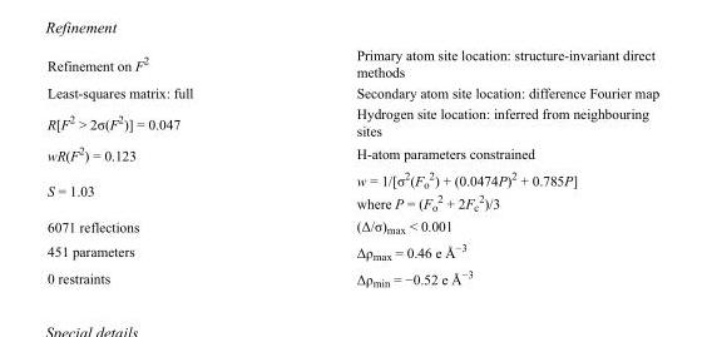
<table><tbody><tr><td>Refinement on F<sup>2</sup></td><td>Primary atom site location: structure-invariant direct methods</td></tr><tr><td>Least-squares matrix: full</td><td>Secondary atom site location: difference Fourier map</td></tr><tr><td>R[F<sup>2</sup> &gt; 2σ(F<sup>2</sup>)] = 0.047</td><td>Hydrogen site location: inferred from neighbouring sites</td></tr><tr><td>wR(F<sup>2</sup>) = 0.123</td><td>H-atom parameters constrained</td></tr><tr><td>S = 1.03</td><td>w = 1/[σ<sup>2</sup>(F<sub>o</sub> <sup>2</sup>) + (0.0474P)<sup>2</sup> + 0.785P] where P = (F<sub>o</sub> <sup>2</sup> + 2F<sub>c</sub> <sup>2</sup>)/3</td></tr><tr><td>6071 reflections</td><td>(Δ/σ)<sub>max</sub> &lt; 0.001</td></tr><tr><td>451 parameters</td><td>Δρ<sub>max</sub> = 0.46 e Å<sup>−3</sup></td></tr><tr><td>0 restraints</td><td>Δρ<sub>min</sub> = −0.52 e Å<sup>−3</sup></td></tr></tbody></table>